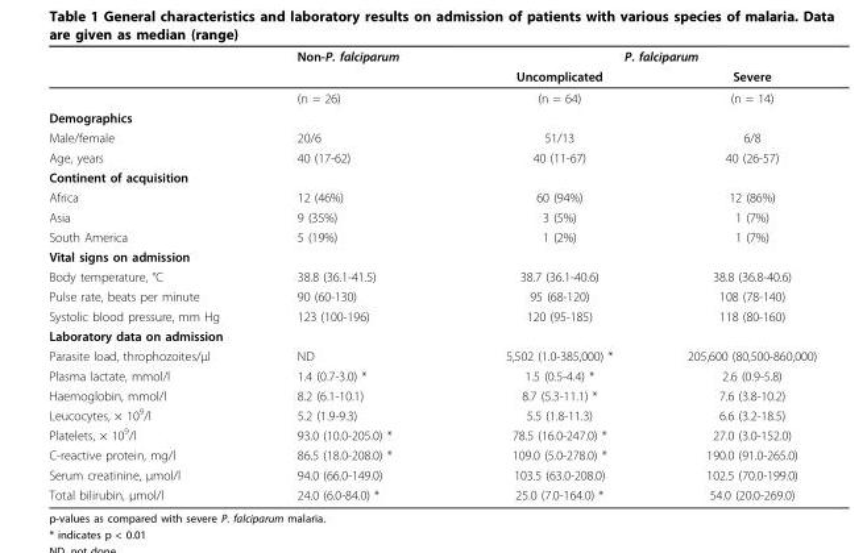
<table><thead><tr><td rowspan="2"></td><td rowspan="2">Non-P. falciparum</td><td colspan="2">P. falciparum</td></tr><tr><td>Uncomplicated</td><td>Severe</td></tr></thead><tbody><tr><td></td><td>(n = 26)</td><td>(n = 64)</td><td>(n = 14)</td></tr><tr><td colspan="4">Demographics</td></tr><tr><td>Male/female</td><td>20/6</td><td>51/13</td><td>6/8</td></tr><tr><td>Age, years</td><td>40 (17-62)</td><td>40 (11-67)</td><td>40 (26-57)</td></tr><tr><td colspan="4">Continent of acquisition</td></tr><tr><td>Africa</td><td>12 (46%)</td><td>60 (94%)</td><td>12 (86%)</td></tr><tr><td>Asia</td><td>9 (35%)</td><td>3 (5%)</td><td>1 (7%)</td></tr><tr><td>South America</td><td>5 (19%)</td><td>1 (2%)</td><td>1 (7%)</td></tr><tr><td colspan="4">Vital signs on admission</td></tr><tr><td>Body temperature, °C</td><td>38.8 (36.1-41.5)</td><td>38.7 (36.1-40.6)</td><td>38.8 (36.8-40.6)</td></tr><tr><td>Pulse rate, beats per minute</td><td>90 (60-130)</td><td>95 (68-120)</td><td>108 (78-140)</td></tr><tr><td>Systolic blood pressure, mm Hg</td><td>123 (100-196)</td><td>120 (95-185)</td><td>118 (80-160)</td></tr><tr><td colspan="4">Laboratory data on admission</td></tr><tr><td>Parasite load, throphozoites/μl</td><td>ND</td><td>5,502 (1.0-385,000) *</td><td>205,600 (80,500-860,000)</td></tr><tr><td>Plasma lactate, mmol/l</td><td>1.4 (0.7-3.0) *</td><td>1.5 (0.5-4.4) *</td><td>2.6 (0.9-5.8)</td></tr><tr><td>Haemoglobin, mmol/l</td><td>8.2 (6.1-10.1)</td><td>8.7 (5.3-11.1) *</td><td>7.6 (3.8-10.2)</td></tr><tr><td>Leucocytes, × 10<sup>9</sup>/l</td><td>5.2 (1.9-9.3)</td><td>5.5 (1.8-11.3)</td><td>6.6 (3.2-18.5)</td></tr><tr><td>Platelets, × 10<sup>9</sup>/l</td><td>93.0 (10.0-205.0) *</td><td>78.5 (16.0-247.0) *</td><td>27.0 (3.0-152.0)</td></tr><tr><td>C-reactive protein, mg/l</td><td>86.5 (18.0-208.0) *</td><td>109.0 (5.0-278.0) *</td><td>190.0 (91.0-265.0)</td></tr><tr><td>Serum creatinine, μmol/l</td><td>94.0 (66.0-149.0)</td><td>103.5 (63.0-208.0)</td><td>102.5 (70.0-199.0)</td></tr><tr><td>Total bilirubin, μmol/l</td><td>24.0 (6.0-84.0) *</td><td>25.0 (7.0-164.0) *</td><td>54.0 (20.0-269.0)</td></tr></tbody></table>